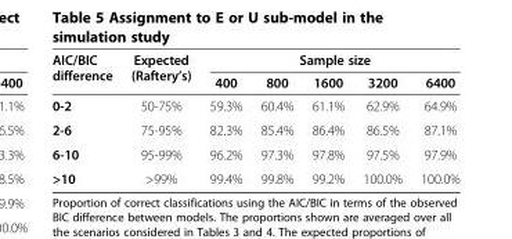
<table><thead><tr><td rowspan="2">AIC/BIC difference</td><td rowspan="2">Expected (Raftery’s)</td><td colspan="5">Sample size</td></tr><tr><td>400</td><td>800</td><td>1600</td><td>3200</td><td>6400</td></tr></thead><tbody><tr><td>0-2</td><td>50-75%</td><td>59.3%</td><td>60.4%</td><td>61.1%</td><td>62.9%</td><td>64.9%</td></tr><tr><td>2-6</td><td>75-95%</td><td>82.3%</td><td>85.4%</td><td>86.4%</td><td>86.5%</td><td>87.1%</td></tr><tr><td>6-10</td><td>95-99%</td><td>96.2%</td><td>97.3%</td><td>97.8%</td><td>97.5%</td><td>97.9%</td></tr><tr><td>&gt;10</td><td>&gt;99%</td><td>99.4%</td><td>99.8%</td><td>99.2%</td><td>100.0%</td><td>100.0%</td></tr></tbody></table>